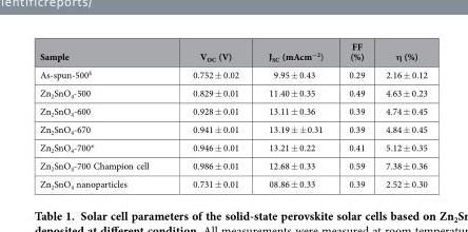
<table><thead><tr><td>Sample</td><td>V<sub>OC</sub> (V)</td><td>J<sub>SC</sub> (mAcm<sup>−2</sup>)</td><td>FF (%)</td><td>η (%)</td></tr></thead><tbody><tr><td>As-spun-500$</td><td>0.752 ± 0.02</td><td>9.95 ± 0.43</td><td>0.29</td><td>2.16 ± 0.12</td></tr><tr><td>Zn<sub>2</sub>SnO<sub>4</sub>-500</td><td>0.829 ± 0.01</td><td>11.40 ± 0.35</td><td>0.49</td><td>4.63 ± 0.23</td></tr><tr><td>Zn<sub>2</sub>SnO<sub>4</sub>-600</td><td>0.928 ± 0.01</td><td>13.11 ± 0.36</td><td>0.39</td><td>4.74 ± 0.45</td></tr><tr><td>Zn<sub>2</sub>SnO<sub>4</sub>-670</td><td>0.941 ± 0.01</td><td>13.19 ± ± 0.31</td><td>0.39</td><td>4.84 ± 0.45</td></tr><tr><td>Zn<sub>2</sub>SnO<sub>4</sub>-700*</td><td>0.946 ± 0.01</td><td>13.21 ± 0.22</td><td>0.41</td><td>5.12 ± 0.35</td></tr><tr><td>Zn<sub>2</sub>SnO<sub>4</sub>-700 Champion cell</td><td>0.986 ± 0.01</td><td>12.68 ± 0.33</td><td>0.59</td><td>7.38 ± 0.36</td></tr><tr><td>Zn<sub>2</sub>SnO<sub>4</sub> nanoparticles</td><td>0.731 ± 0.01</td><td>08.86 ± 0.33</td><td>0.39</td><td>2.52 ± 0.30</td></tr></tbody></table>